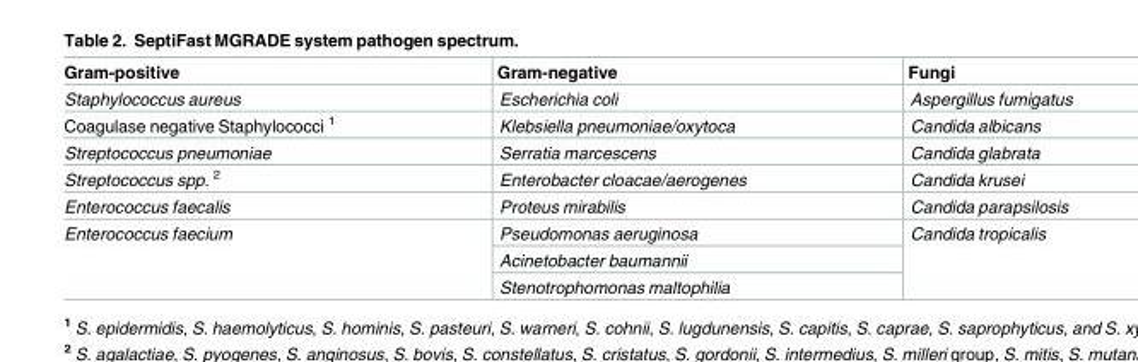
<table><thead><tr><td>Gram-positive</td><td>Gram-negative</td><td>Fungi</td></tr></thead><tbody><tr><td>Staphylococcus aureus</td><td>Escherichia coli</td><td>Aspergillus fumigatus</td></tr><tr><td>Coagulase negative Staphylococci <sup>1</sup></td><td>Klebsiella pneumoniae/oxytoca</td><td>Candida albicans</td></tr><tr><td>Streptococcus pneumoniae</td><td>Serratia marcescens</td><td>Candida glabrata</td></tr><tr><td>Streptococcus spp. <sup>2</sup></td><td>Enterobacter cloacae/aerogenes</td><td>Candida krusei</td></tr><tr><td>Enterococcus faecalis</td><td>Proteus mirabilis</td><td>Candida parapsilosis</td></tr><tr><td rowspan="3">Enterococcus faecium</td><td>Pseudomonas aeruginosa</td><td rowspan="3">Candida tropicalis</td></tr><tr><td>Acinetobacter baumannii</td></tr><tr><td>Stenotrophomonas maltophilia</td></tr></tbody></table>